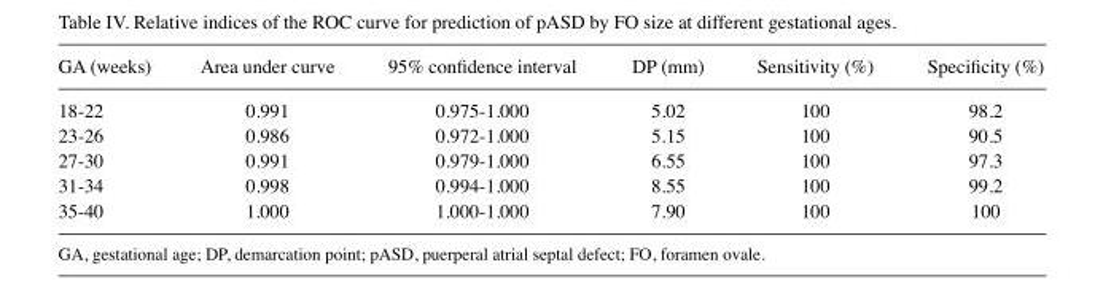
<table><thead><tr><td>GA (weeks)</td><td>Area under curve</td><td>95% confidence interval</td><td>DP (mm)</td><td>Sensitivity (%)</td><td>Specificity (%)</td></tr></thead><tbody><tr><td>18-22</td><td>0.991</td><td>0.975-1.000</td><td>5.02</td><td>100</td><td>98.2</td></tr><tr><td>23-26</td><td>0.986</td><td>0.972-1.000</td><td>5.15</td><td>100</td><td>90.5</td></tr><tr><td>27-30</td><td>0.991</td><td>0.979-1.000</td><td>6.55</td><td>100</td><td>97.3</td></tr><tr><td>31-34</td><td>0.998</td><td>0.994-1.000</td><td>8.55</td><td>100</td><td>99.2</td></tr><tr><td>35-40</td><td>1.000</td><td>1.000-1.000</td><td>7.90</td><td>100</td><td>100</td></tr></tbody></table>